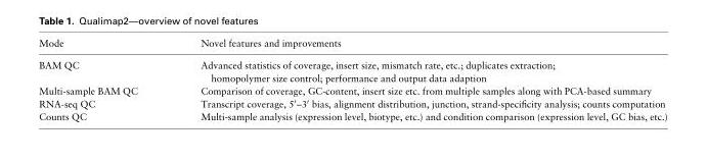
<table><thead><tr><td>Mode</td><td>Novel features and improvements</td></tr></thead><tbody><tr><td>BAM QC</td><td>Advanced statistics of coverage, insert size, mismatch rate, etc.; duplicates extraction; homopolymer size control; performance and output data adaption</td></tr><tr><td>Multi-sample BAM QC</td><td>Comparison of coverage, GC-content, insert size etc. from multiple samples along with PCA-based summary</td></tr><tr><td>RNA-seq QC</td><td>Transcript coverage, 5′–3′ bias, alignment distribution, junction, strand-specificity analysis; counts computation</td></tr><tr><td>Counts QC</td><td>Multi-sample analysis (expression level, biotype, etc.) and condition comparison (expression level, GC bias, etc.)</td></tr></tbody></table>